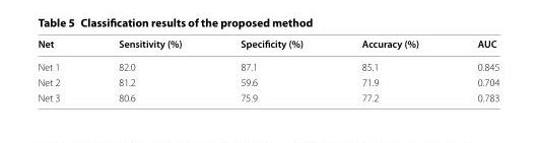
<table><thead><tr><td>Net</td><td>Sensitivity (%)</td><td>Specificity (%)</td><td>Accuracy (%)</td><td>AUC</td></tr></thead><tbody><tr><td>Net 1</td><td>82.0</td><td>87.1</td><td>85.1</td><td>0.845</td></tr><tr><td>Net 2</td><td>81.2</td><td>59.6</td><td>71.9</td><td>0.704</td></tr><tr><td>Net 3</td><td>80.6</td><td>75.9</td><td>77.2</td><td>0.783</td></tr></tbody></table>